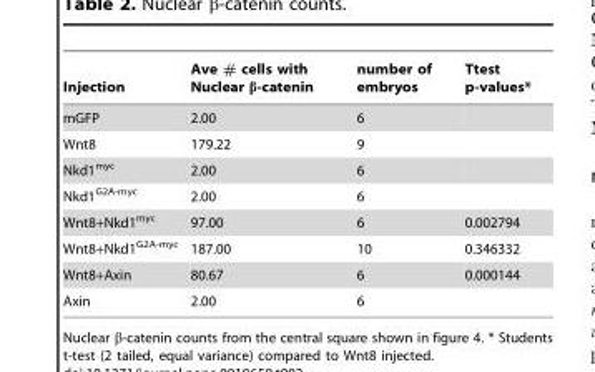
<table><thead><tr><td>Injection</td><td>Ave # cells with Nuclear β-catenin</td><td>number of embryos</td><td>Ttest p-values*</td></tr></thead><tbody><tr><td>mGFP</td><td>2.00</td><td>6</td><td></td></tr><tr><td>Wnt8</td><td>179.22</td><td>9</td><td></td></tr><tr><td>Nkd1<sup>myc</sup></td><td>2.00</td><td>6</td><td></td></tr><tr><td>Nkd1<sup>G2A-myc</sup></td><td>2.00</td><td>6</td><td></td></tr><tr><td>Wnt8+Nkd1<sup>myc</sup></td><td>97.00</td><td>6</td><td>0.002794</td></tr><tr><td>Wnt8+Nkd1<sup>G2A-myc</sup></td><td>187.00</td><td>10</td><td>0.346332</td></tr><tr><td>Wnt8+Axin</td><td>80.67</td><td>6</td><td>0.000144</td></tr><tr><td>Axin</td><td>2.00</td><td>6</td><td></td></tr></tbody></table>